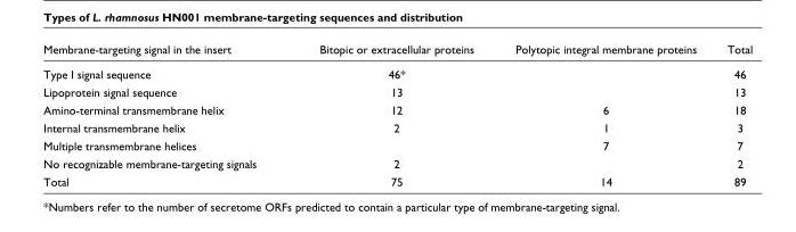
<table><thead><tr><td>Membrane-targeting signal in the insert</td><td>Bitopic or extracellular proteins</td><td>Polytopic integral membrane proteins</td><td>Total</td></tr></thead><tbody><tr><td>Type I signal sequence</td><td>46*</td><td></td><td>46</td></tr><tr><td>Lipoprotein signal sequence</td><td>13</td><td></td><td>13</td></tr><tr><td>Amino-terminal transmembrane helix</td><td>12</td><td>6</td><td>18</td></tr><tr><td>Internal transmembrane helix</td><td>2</td><td>1</td><td>3</td></tr><tr><td>Multiple transmembrane helices</td><td></td><td>7</td><td>7</td></tr><tr><td>No recognizable membrane-targeting signals</td><td>2</td><td></td><td>2</td></tr><tr><td>Total</td><td>75</td><td>14</td><td>89</td></tr></tbody></table>